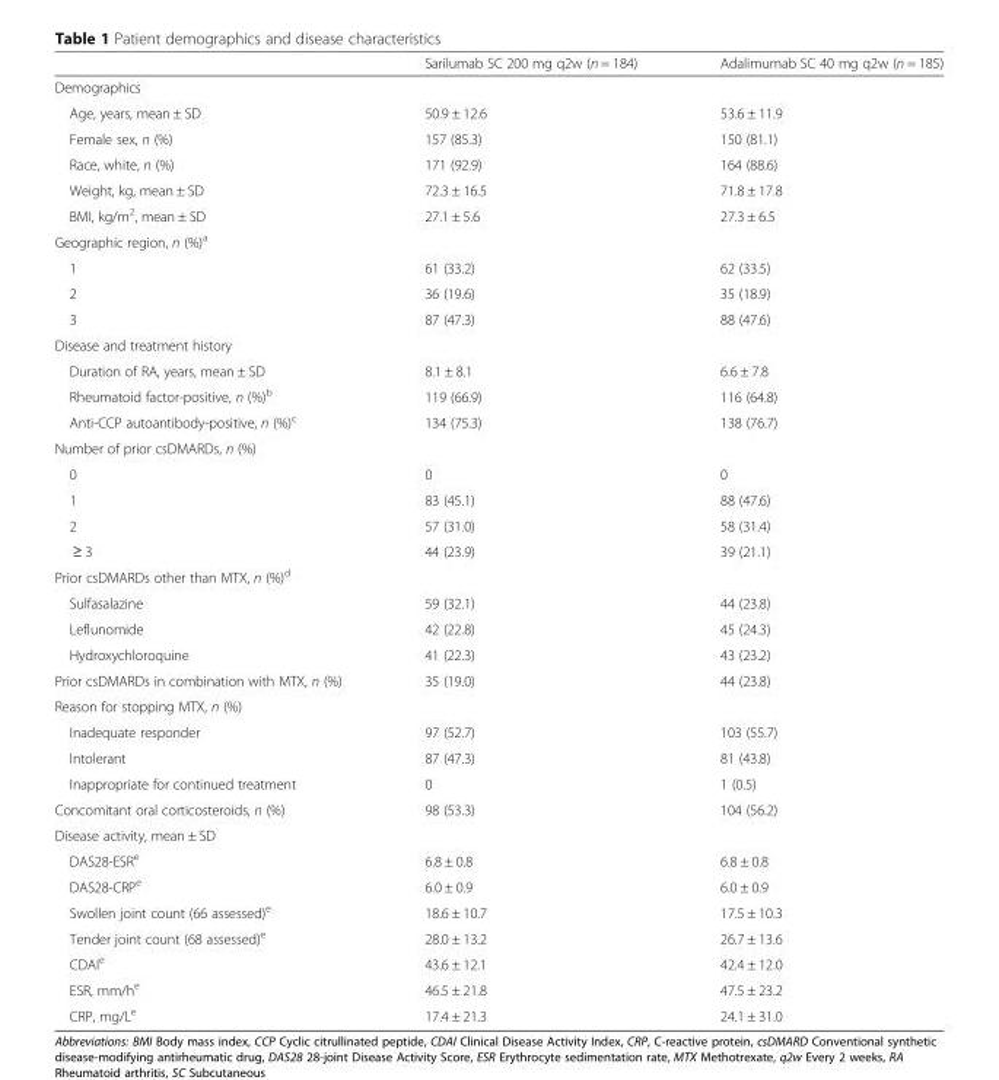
<table><thead><tr><td></td><td>Sarilumab SC 200 mg q2w (n = 184)</td><td>Adalimumab SC 40 mg q2w (n = 185)</td></tr></thead><tbody><tr><td colspan="3">Demographics</td></tr><tr><td>Age, years, mean ± SD</td><td>50.9 ± 12.6</td><td>53.6 ± 11.9</td></tr><tr><td>Female sex, n (%)</td><td>157 (85.3)</td><td>150 (81.1)</td></tr><tr><td>Race, white, n (%)</td><td>171 (92.9)</td><td>164 (88.6)</td></tr><tr><td>Weight, kg, mean ± SD</td><td>72.3 ± 16.5</td><td>71.8 ± 17.8</td></tr><tr><td>BMI, kg/m<sup>2</sup>, mean ± SD</td><td>27.1 ± 5.6</td><td>27.3 ± 6.5</td></tr><tr><td colspan="3">Geographic region, n (%)<sup>a</sup></td></tr><tr><td>1</td><td>61 (33.2)</td><td>62 (33.5)</td></tr><tr><td>2</td><td>36 (19.6)</td><td>35 (18.9)</td></tr><tr><td>3</td><td>87 (47.3)</td><td>88 (47.6)</td></tr><tr><td colspan="3">Disease and treatment history</td></tr><tr><td>Duration of RA, years, mean ± SD</td><td>8.1 ± 8.1</td><td>6.6 ± 7.8</td></tr><tr><td>Rheumatoid factor-positive, n (%)<sup>b</sup></td><td>119 (66.9)</td><td>116 (64.8)</td></tr><tr><td>Anti-CCP autoantibody-positive, n (%)<sup>c</sup></td><td>134 (75.3)</td><td>138 (76.7)</td></tr><tr><td colspan="3">Number of prior csDMARDs, n (%)</td></tr><tr><td>0</td><td>0</td><td>0</td></tr><tr><td>1</td><td>83 (45.1)</td><td>88 (47.6)</td></tr><tr><td>2</td><td>57 (31.0)</td><td>58 (31.4)</td></tr><tr><td>≥ 3</td><td>44 (23.9)</td><td>39 (21.1)</td></tr><tr><td colspan="3">Prior csDMARDs other than MTX, n (%)<sup>d</sup></td></tr><tr><td>Sulfasalazine</td><td>59 (32.1)</td><td>44 (23.8)</td></tr><tr><td>Leflunomide</td><td>42 (22.8)</td><td>45 (24.3)</td></tr><tr><td>Hydroxychloroquine</td><td>41 (22.3)</td><td>43 (23.2)</td></tr><tr><td>Prior csDMARDs in combination with MTX, n (%)</td><td>35 (19.0)</td><td>44 (23.8)</td></tr><tr><td colspan="3">Reason for stopping MTX, n (%)</td></tr><tr><td>Inadequate responder</td><td>97 (52.7)</td><td>103 (55.7)</td></tr><tr><td>Intolerant</td><td>87 (47.3)</td><td>81 (43.8)</td></tr><tr><td>Inappropriate for continued treatment</td><td>0</td><td>1 (0.5)</td></tr><tr><td>Concomitant oral corticosteroids, n (%)</td><td>98 (53.3)</td><td>104 (56.2)</td></tr><tr><td colspan="3">Disease activity, mean ± SD</td></tr><tr><td>DAS28-ESR<sup>e</sup></td><td>6.8 ± 0.8</td><td>6.8 ± 0.8</td></tr><tr><td>DAS28-CRP<sup>e</sup></td><td>6.0 ± 0.9</td><td>6.0 ± 0.9</td></tr><tr><td>Swollen joint count (66 assessed)<sup>e</sup></td><td>18.6 ± 10.7</td><td>17.5 ± 10.3</td></tr><tr><td>Tender joint count (68 assessed)<sup>e</sup></td><td>28.0 ± 13.2</td><td>26.7 ± 13.6</td></tr><tr><td>CDAI<sup>e</sup></td><td>43.6 ± 12.1</td><td>42.4 ± 12.0</td></tr><tr><td>ESR, mm/h<sup>e</sup></td><td>46.5 ± 21.8</td><td>47.5 ± 23.2</td></tr><tr><td>CRP, mg/L<sup>e</sup></td><td>17.4 ± 21.3</td><td>24.1 ± 31.0</td></tr></tbody></table>